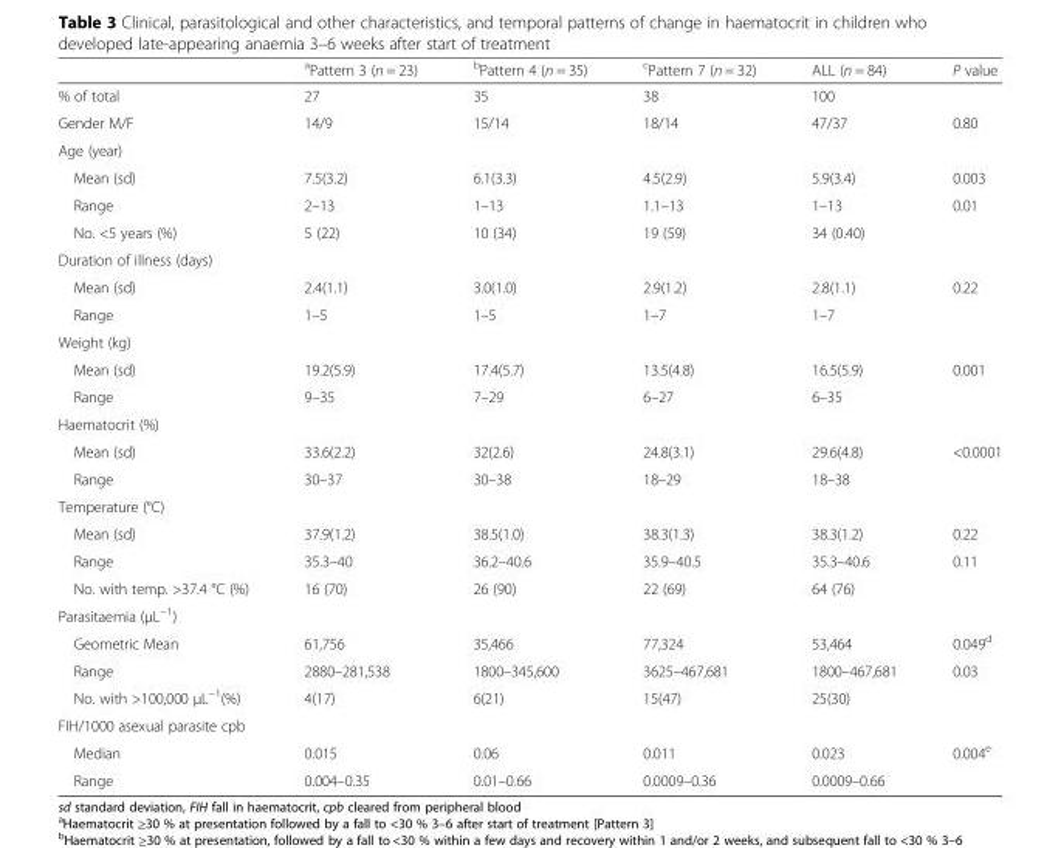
<table><thead><tr><td></td><td><sup>a</sup>Pattern 3 (n = 23)</td><td><sup>b</sup>Pattern 4 (n = 35)</td><td><sup>c</sup>Pattern 7 (n = 32)</td><td>ALL (n = 84)</td><td>P value</td></tr></thead><tbody><tr><td>% of total</td><td>27</td><td>35</td><td>38</td><td>100</td><td></td></tr><tr><td>Gender M/F</td><td>14/9</td><td>15/14</td><td>18/14</td><td>47/37</td><td>0.80</td></tr><tr><td colspan="6">Age (year)</td></tr><tr><td>Mean (sd)</td><td>7.5(3.2)</td><td>6.1(3.3)</td><td>4.5(2.9)</td><td>5.9(3.4)</td><td>0.003</td></tr><tr><td>Range</td><td>2–13</td><td>1–13</td><td>1.1–13</td><td>1–13</td><td rowspan="2">0.01</td></tr><tr><td>No. &lt;5 years (%)</td><td>5 (22)</td><td>10 (34)</td><td>19 (59)</td><td>34 (0.40)</td></tr><tr><td colspan="6">Duration of illness (days)</td></tr><tr><td>Mean (sd)</td><td>2.4(1.1)</td><td>3.0(1.0)</td><td>2.9(1.2)</td><td>2.8(1.1)</td><td rowspan="2">0.22</td></tr><tr><td>Range</td><td>1–5</td><td>1–5</td><td>1–7</td><td>1–7</td></tr><tr><td colspan="6">Weight (kg)</td></tr><tr><td>Mean (sd)</td><td>19.2(5.9)</td><td>17.4(5.7)</td><td>13.5(4.8)</td><td>16.5(5.9)</td><td rowspan="2">0.001</td></tr><tr><td>Range</td><td>9–35</td><td>7–29</td><td>6–27</td><td>6–35</td></tr><tr><td colspan="6">Haematocrit (%)</td></tr><tr><td>Mean (sd)</td><td>33.6(2.2)</td><td>32(2.6)</td><td>24.8(3.1)</td><td>29.6(4.8)</td><td rowspan="2">&lt;0.0001</td></tr><tr><td>Range</td><td>30–37</td><td>30–38</td><td>18–29</td><td>18–38</td></tr><tr><td colspan="6">Temperature (°C)</td></tr><tr><td>Mean (sd)</td><td>37.9(1.2)</td><td>38.5(1.0)</td><td>38.3(1.3)</td><td>38.3(1.2)</td><td>0.22</td></tr><tr><td>Range</td><td>35.3–40</td><td>36.2–40.6</td><td>35.9–40.5</td><td>35.3–40.6</td><td rowspan="2">0.11</td></tr><tr><td>No. with temp. &gt;37.4 °C (%)</td><td>16 (70)</td><td>26 (90)</td><td>22 (69)</td><td>64 (76)</td></tr><tr><td colspan="6">Parasitaemia (μL<sup>−1</sup>)</td></tr><tr><td>Geometric Mean</td><td>61,756</td><td>35,466</td><td>77,324</td><td>53,464</td><td>0.049<sup>d</sup></td></tr><tr><td>Range</td><td>2880–281,538</td><td>1800–345,600</td><td>3625–467,681</td><td>1800–467,681</td><td rowspan="2">0.03</td></tr><tr><td>No. with &gt;100,000 μL<sup>−1</sup>(%)</td><td>4(17)</td><td>6(21)</td><td>15(47)</td><td>25(30)</td></tr><tr><td colspan="6">FIH/1000 asexual parasite cpb</td></tr><tr><td>Median</td><td>0.015</td><td>0.06</td><td>0.011</td><td>0.023</td><td rowspan="2">0.004<sup>e</sup></td></tr><tr><td>Range</td><td>0.004–0.35</td><td>0.01–0.66</td><td>0.0009–0.36</td><td>0.0009–0.66</td></tr></tbody></table>